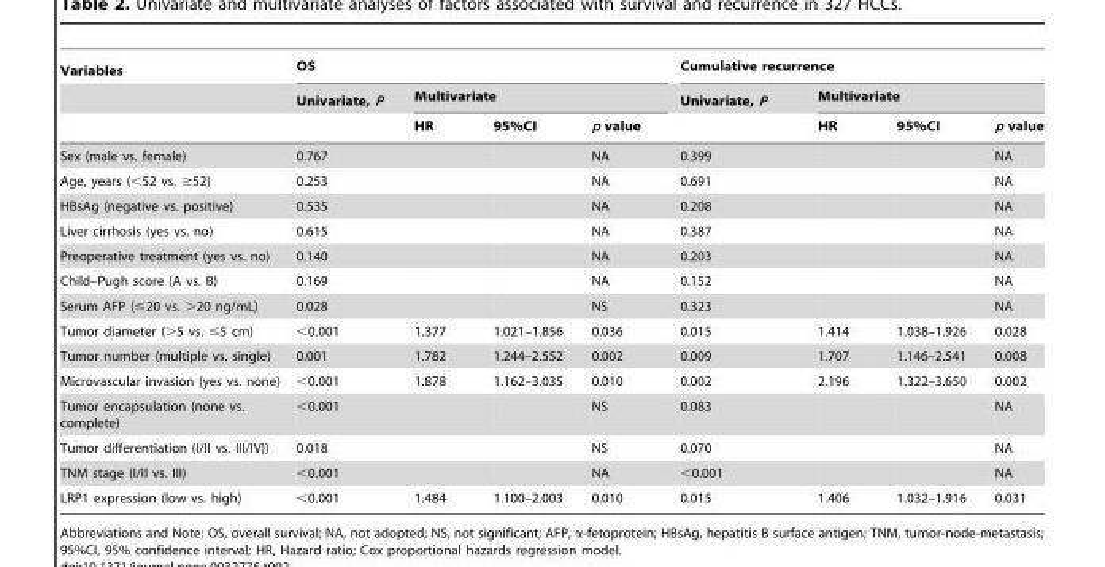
<table><thead><tr><td rowspan="3">Variables</td><td colspan="4">OS</td><td colspan="4">Cumulative recurrence</td></tr><tr><td rowspan="2">Univariate, P</td><td colspan="3">Multivariate</td><td rowspan="2">Univariate, P</td><td colspan="3">Multivariate</td></tr><tr><td>HR</td><td>95%CI</td><td>p value</td><td>HR</td><td>95%CI</td><td>p value</td></tr></thead><tbody><tr><td>Sex (male vs. female)</td><td>0.767</td><td></td><td></td><td>NA</td><td>0.399</td><td></td><td></td><td>NA</td></tr><tr><td>Age, years (&lt;52 vs. ≥52)</td><td>0.253</td><td></td><td></td><td>NA</td><td>0.691</td><td></td><td></td><td>NA</td></tr><tr><td>HBsAg (negative vs. positive)</td><td>0.535</td><td></td><td></td><td>NA</td><td>0.208</td><td></td><td></td><td>NA</td></tr><tr><td>Liver cirrhosis (yes vs. no)</td><td>0.615</td><td></td><td></td><td>NA</td><td>0.387</td><td></td><td></td><td>NA</td></tr><tr><td>Preoperative treatment (yes vs. no)</td><td>0.140</td><td></td><td></td><td>NA</td><td>0.203</td><td></td><td></td><td>NA</td></tr><tr><td>Child–Pugh score (A vs. B)</td><td>0.169</td><td></td><td></td><td>NA</td><td>0.152</td><td></td><td></td><td>NA</td></tr><tr><td>Serum AFP (≤20 vs. &gt;20 ng/mL)</td><td>0.028</td><td></td><td></td><td>NS</td><td>0.323</td><td></td><td></td><td>NA</td></tr><tr><td>Tumor diameter (&gt;5 vs. ≤5 cm)</td><td>&lt;0.001</td><td>1.377</td><td>1.021–1.856</td><td>0.036</td><td>0.015</td><td>1.414</td><td>1.038–1.926</td><td>0.028</td></tr><tr><td>Tumor number (multiple vs. single)</td><td>0.001</td><td>1.782</td><td>1.244–2.552</td><td>0.002</td><td>0.009</td><td>1.707</td><td>1.146–2.541</td><td>0.008</td></tr><tr><td>Microvascular invasion (yes vs. none)</td><td>&lt;0.001</td><td>1.878</td><td>1.162–3.035</td><td>0.010</td><td>0.002</td><td>2.196</td><td>1.322–3.650</td><td>0.002</td></tr><tr><td>Tumor encapsulation (none vs. complete)</td><td>&lt;0.001</td><td></td><td></td><td>NS</td><td>0.083</td><td></td><td></td><td>NA</td></tr><tr><td>Tumor differentiation (I/II vs. III/IV))</td><td>0.018</td><td></td><td></td><td>NS</td><td>0.070</td><td></td><td></td><td>NA</td></tr><tr><td>TNM stage (I/II vs. III)</td><td>&lt;0.001</td><td></td><td></td><td>NA</td><td>&lt;0.001</td><td></td><td></td><td>NA</td></tr><tr><td>LRP1 expression (low vs. high)</td><td>&lt;0.001</td><td>1.484</td><td>1.100–2.003</td><td>0.010</td><td>0.015</td><td>1.406</td><td>1.032–1.916</td><td>0.031</td></tr></tbody></table>